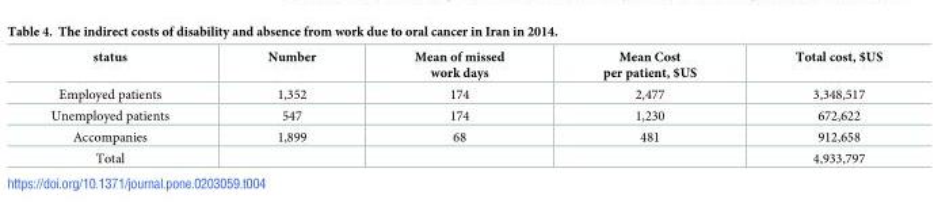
<table><thead><tr><td>status</td><td>Number</td><td>Mean of missed work days</td><td>Mean Cost per patient, $US</td><td>Total cost, $US</td></tr></thead><tbody><tr><td>Employed patients</td><td>1,352</td><td>174</td><td>2,477</td><td>3,348,517</td></tr><tr><td>Unemployed patients</td><td>547</td><td>174</td><td>1,230</td><td>672,622</td></tr><tr><td>Accompanies</td><td>1,899</td><td>68</td><td>481</td><td>912,658</td></tr><tr><td>Total</td><td></td><td></td><td></td><td>4,933,797</td></tr></tbody></table>